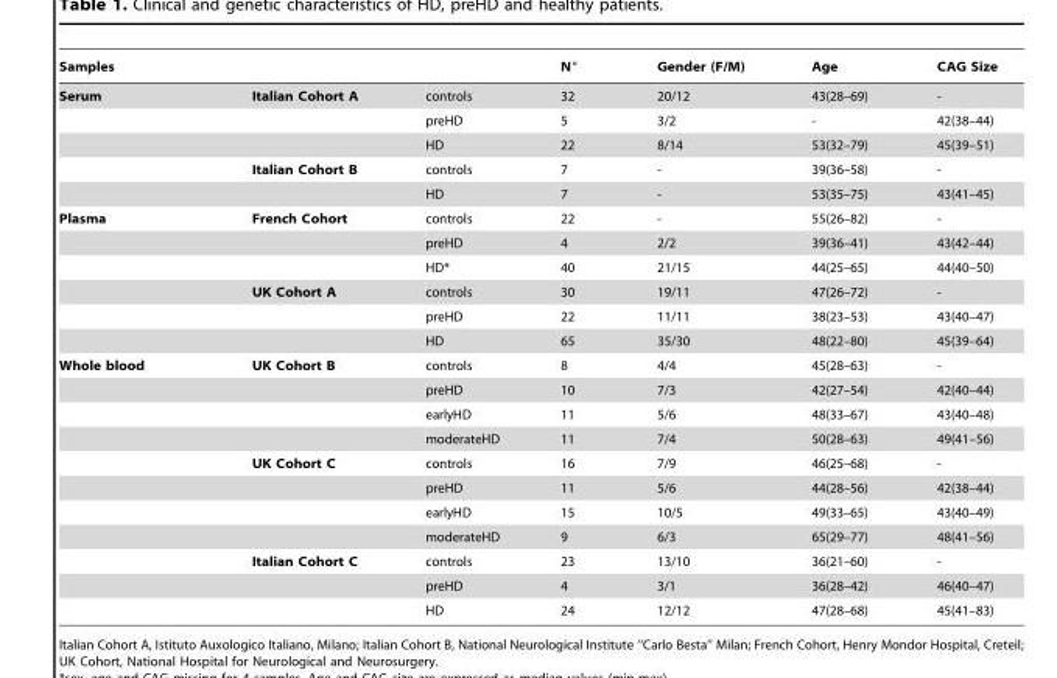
<table><thead><tr><td colspan="3">Samples</td><td rowspan="2">N° 32</td><td rowspan="2">Gender (F/M) 20/12</td><td rowspan="2">Age 43(28–69)</td><td rowspan="2">CAG Size -</td></tr><tr><td>Serum</td><td>Italian Cohort A</td><td>controls</td></tr></thead><tbody><tr><td></td><td></td><td>preHD</td><td>5</td><td>3/2</td><td>-</td><td>42(38–44)</td></tr><tr><td></td><td></td><td>HD</td><td>22</td><td>8/14</td><td>53(32–79)</td><td>45(39–51)</td></tr><tr><td></td><td>Italian Cohort B</td><td>controls</td><td>7</td><td>-</td><td>39(36–58)</td><td>-</td></tr><tr><td></td><td></td><td>HD</td><td>7</td><td>-</td><td>53(35–75)</td><td>43(41–45)</td></tr><tr><td rowspan="6">Plasma</td><td>French Cohort</td><td>controls</td><td>22</td><td>-</td><td>55(26–82)</td><td>-</td></tr><tr><td></td><td>preHD</td><td>4</td><td>2/2</td><td>39(36–41)</td><td>43(42–44)</td></tr><tr><td></td><td>HD*</td><td>40</td><td>21/15</td><td>44(25–65)</td><td>44(40–50)</td></tr><tr><td>UK Cohort A</td><td>controls</td><td>30</td><td>19/11</td><td>47(26–72)</td><td>-</td></tr><tr><td></td><td>preHD</td><td>22</td><td>11/11</td><td>38(23–53)</td><td>43(40–47)</td></tr><tr><td></td><td>HD</td><td>65</td><td>35/30</td><td>48(22–80)</td><td>45(39–64)</td></tr><tr><td rowspan="11">Whole blood</td><td>UK Cohort B</td><td>controls</td><td>8</td><td>4/4</td><td>45(28–63)</td><td>-</td></tr><tr><td></td><td>preHD</td><td>10</td><td>7/3</td><td>42(27–54)</td><td>42(40–44)</td></tr><tr><td></td><td>earlyHD</td><td>11</td><td>5/6</td><td>48(33–67)</td><td>43(40–48)</td></tr><tr><td></td><td>moderateHD</td><td>11</td><td>7/4</td><td>50(28–63)</td><td>49(41–56)</td></tr><tr><td>UK Cohort C</td><td>controls</td><td>16</td><td>7/9</td><td>46(25–68)</td><td>-</td></tr><tr><td></td><td>preHD</td><td>11</td><td>5/6</td><td>44(28–56)</td><td>42(38–44)</td></tr><tr><td></td><td>earlyHD</td><td>15</td><td>10/5</td><td>49(33–65)</td><td>43(40–49)</td></tr><tr><td></td><td>moderateHD</td><td>9</td><td>6/3</td><td>65(29–77)</td><td>48(41–56)</td></tr><tr><td>Italian Cohort C</td><td>controls</td><td>23</td><td>13/10</td><td>36(21–60)</td><td>-</td></tr><tr><td></td><td>preHD</td><td>4</td><td>3/1</td><td>36(28–42)</td><td>46(40–47)</td></tr><tr><td></td><td>HD</td><td>24</td><td>12/12</td><td>47(28–68)</td><td>45(41–83)</td></tr></tbody></table>